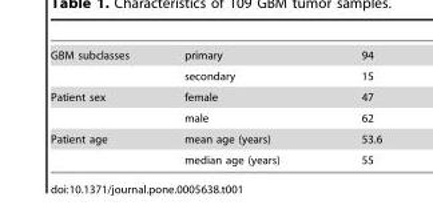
<table><tbody><tr><td rowspan="2">GBM subclasses</td><td>primary</td><td>94</td></tr><tr><td>secondary</td><td>15</td></tr><tr><td rowspan="2">Patient sex</td><td>female</td><td>47</td></tr><tr><td>male</td><td>62</td></tr><tr><td rowspan="2">Patient age</td><td>mean age (years)</td><td>53.6</td></tr><tr><td>median age (years)</td><td>55</td></tr></tbody></table>